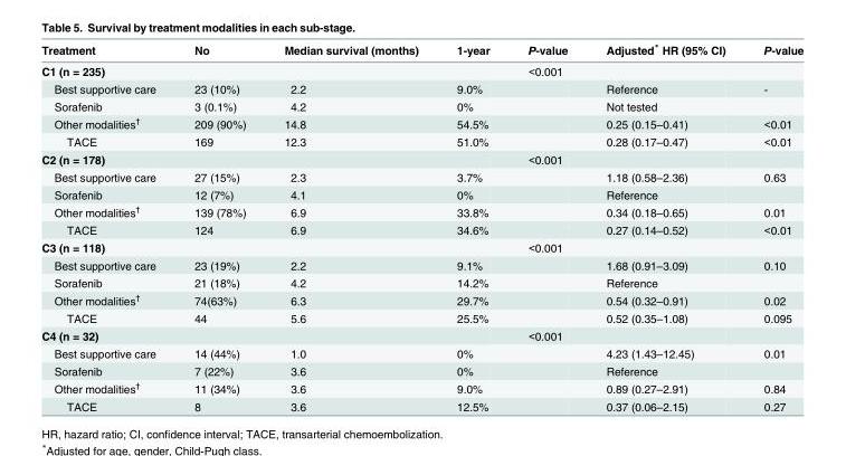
<table><thead><tr><td>Treatment</td><td>No</td><td>Median survival (months)</td><td>1-year</td><td>P-value</td><td>Adjusted* HR (95% CI)</td><td>P-value</td></tr></thead><tbody><tr><td>C1 (n = 235)</td><td></td><td></td><td></td><td>&lt;0.001</td><td></td><td></td></tr><tr><td>Best supportive care</td><td>23 (10%)</td><td>2.2</td><td>9.0%</td><td></td><td>Reference</td><td>-</td></tr><tr><td>Sorafenib</td><td>3 (0.1%)</td><td>4.2</td><td>0%</td><td></td><td>Not tested</td><td></td></tr><tr><td>Other modalities<sup>†</sup></td><td>209 (90%)</td><td>14.8</td><td>54.5%</td><td></td><td>0.25 (0.15–0.41)</td><td>&lt;0.01</td></tr><tr><td>TACE</td><td>169</td><td>12.3</td><td>51.0%</td><td></td><td>0.28 (0.17–0.47)</td><td>&lt;0.01</td></tr><tr><td>C2 (n = 178)</td><td></td><td></td><td></td><td>&lt;0.001</td><td></td><td></td></tr><tr><td>Best supportive care</td><td>27 (15%)</td><td>2.3</td><td>3.7%</td><td></td><td>1.18 (0.58–2.36)</td><td>0.63</td></tr><tr><td>Sorafenib</td><td>12 (7%)</td><td>4.1</td><td>0%</td><td></td><td>Reference</td><td></td></tr><tr><td>Other modalities<sup>†</sup></td><td>139 (78%)</td><td>6.9</td><td>33.8%</td><td></td><td>0.34 (0.18–0.65)</td><td>0.01</td></tr><tr><td>TACE</td><td>124</td><td>6.9</td><td>34.6%</td><td></td><td>0.27 (0.14–0.52)</td><td>&lt;0.01</td></tr><tr><td>C3 (n = 118)</td><td></td><td></td><td></td><td>&lt;0.001</td><td></td><td></td></tr><tr><td>Best supportive care</td><td>23 (19%)</td><td>2.2</td><td>9.1%</td><td></td><td>1.68 (0.91–3.09)</td><td>0.10</td></tr><tr><td>Sorafenib</td><td>21 (18%)</td><td>4.2</td><td>14.2%</td><td></td><td>Reference</td><td></td></tr><tr><td>Other modalities<sup>†</sup></td><td>74(63%)</td><td>6.3</td><td>29.7%</td><td></td><td>0.54 (0.32–0.91)</td><td>0.02</td></tr><tr><td>TACE</td><td>44</td><td>5.6</td><td>25.5%</td><td></td><td>0.52 (0.35–1.08)</td><td>0.095</td></tr><tr><td>C4 (n = 32)</td><td></td><td></td><td></td><td>&lt;0.001</td><td></td><td></td></tr><tr><td>Best supportive care</td><td>14 (44%)</td><td>1.0</td><td>0%</td><td></td><td>4.23 (1.43–12.45)</td><td>0.01</td></tr><tr><td>Sorafenib</td><td>7 (22%)</td><td>3.6</td><td>0%</td><td></td><td>Reference</td><td></td></tr><tr><td>Other modalities<sup>†</sup></td><td>11 (34%)</td><td>3.6</td><td>9.0%</td><td></td><td>0.89 (0.27–2.91)</td><td>0.84</td></tr><tr><td>TACE</td><td>8</td><td>3.6</td><td>12.5%</td><td></td><td>0.37 (0.06–2.15)</td><td>0.27</td></tr></tbody></table>